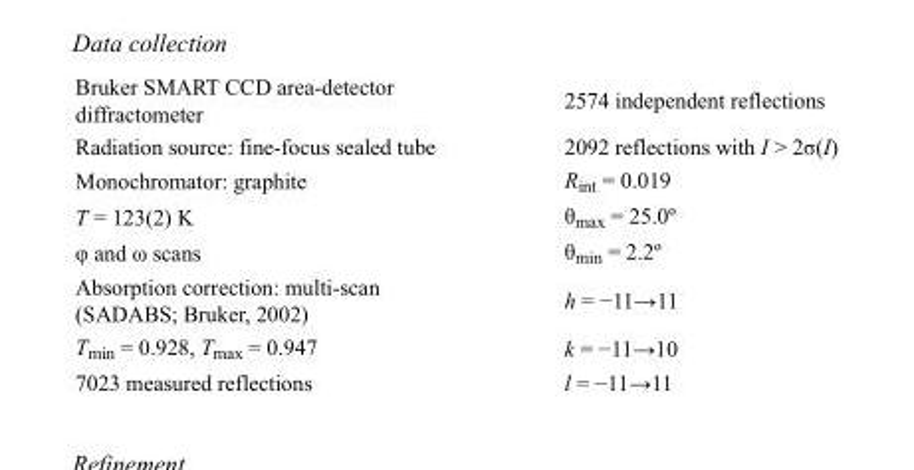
<table><tbody><tr><td>Bruker SMART CCD area-detector diffractometer</td><td>2574 independent reflections</td></tr><tr><td>Radiation source: fine-focus sealed tube</td><td>2092 reflections with I &gt; 2σ(I)</td></tr><tr><td>Monochromator: graphite</td><td>R<sub>int</sub> = 0.019</td></tr><tr><td>T = 123(2) K</td><td>θ<sub>max</sub> = 25.0º</td></tr><tr><td>φ and ω scans</td><td>θ<sub>min</sub> = 2.2º</td></tr><tr><td>Absorption correction: multi-scan (SADABS; Bruker, 2002)</td><td>h = −11→11</td></tr><tr><td>T<sub>min</sub> = 0.928, T<sub>max</sub> = 0.947</td><td>k = −11→10</td></tr><tr><td>7023 measured reflections</td><td>l = −11→11</td></tr></tbody></table>